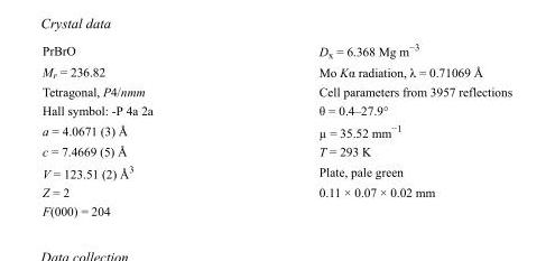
<table><tbody><tr><td>PrBrO</td><td>D<sub>x</sub> = 6.368 Mg m<sup>−3</sup></td></tr><tr><td>M<sub>r</sub> = 236.82</td><td>Mo Kα radiation, λ = 0.71069 Å</td></tr><tr><td>Tetragonal, P4/nmm</td><td>Cell parameters from 3957 reflections</td></tr><tr><td>Hall symbol: -P 4a 2a</td><td>θ = 0.4–27.9°</td></tr><tr><td>a = 4.0671 (3) Å</td><td>µ = 35.52 mm<sup>−1</sup></td></tr><tr><td>c = 7.4669 (5) Å</td><td>T = 293 K</td></tr><tr><td>V = 123.51 (2) Å<sup>3</sup></td><td>Plate, pale green</td></tr><tr><td>Z = 2</td><td>0.11 × 0.07 × 0.02 mm</td></tr><tr><td>F(000) = 204</td><td></td></tr></tbody></table>